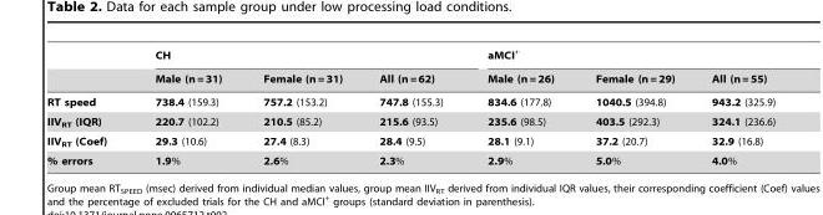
<table><thead><tr><td rowspan="2"></td><td colspan="3">CH</td><td colspan="3">aMCI<sup>+</sup></td></tr><tr><td>Male (n = 31)</td><td>Female (n = 31)</td><td>All (n = 62)</td><td>Male (n = 26)</td><td>Female (n = 29)</td><td>All (n = 55)</td></tr></thead><tbody><tr><td>RT speed</td><td>738.4 (159.3)</td><td>757.2 (153.2)</td><td>747.8 (155.3)</td><td>834.6 (177.8)</td><td>1040.5 (394.8)</td><td>943.2 (325.9)</td></tr><tr><td>IIV<sub>RT</sub> (IQR)</td><td>220.7 (102.2)</td><td>210.5 (85.2)</td><td>215.6 (93.5)</td><td>235.6 (98.5)</td><td>403.5 (292.3)</td><td>324.1 (236.6)</td></tr><tr><td>IIV<sub>RT</sub> (Coef)</td><td>29.3 (10.6)</td><td>27.4 (8.3)</td><td>28.4 (9.5)</td><td>28.1 (9.1)</td><td>37.2 (20.7)</td><td>32.9 (16.8)</td></tr><tr><td>% errors</td><td>1.9%</td><td>2.6%</td><td>2.3%</td><td>2.9%</td><td>5.0%</td><td>4.0%</td></tr></tbody></table>